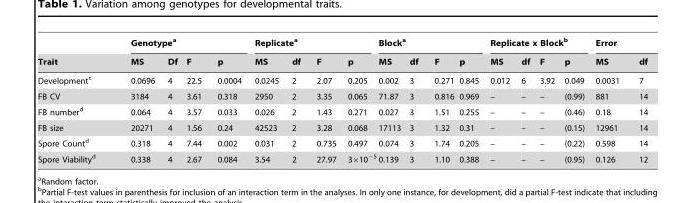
<table><thead><tr><td rowspan="2">Trait</td><td colspan="4">Genotype<sup>a</sup></td><td colspan="4">Replicate<sup>a</sup></td><td colspan="4">Block<sup>a</sup></td><td colspan="4">Replicate x Block<sup>b</sup></td><td colspan="2">Error</td></tr><tr><td>MS</td><td>Df</td><td>F</td><td>p</td><td>MS</td><td>df</td><td>F</td><td>p</td><td>MS</td><td>df</td><td>F</td><td>p</td><td>MS</td><td>df</td><td>F</td><td>p</td><td>MS</td><td>df</td></tr></thead><tbody><tr><td>Development<sup>c</sup></td><td>0.0696</td><td>4</td><td>22.5</td><td>0.0004</td><td>0.0245</td><td>2</td><td>2.07</td><td>0.205</td><td>0.002</td><td>3</td><td>0.271</td><td>0.845</td><td>0.012</td><td>6</td><td>3.92</td><td>0.049</td><td>0.0031</td><td>7</td></tr><tr><td>FB CV</td><td>3184</td><td>4</td><td>3.61</td><td>0.318</td><td>2950</td><td>2</td><td>3.35</td><td>0.065</td><td>71.87</td><td>3</td><td>0.816</td><td>0.969</td><td>–</td><td>–</td><td>–</td><td>(0.99)</td><td>881</td><td>14</td></tr><tr><td>FB number<sup>d</sup></td><td>0.064</td><td>4</td><td>3.57</td><td>0.033</td><td>0.026</td><td>2</td><td>1.43</td><td>0.271</td><td>0.027</td><td>3</td><td>1.51</td><td>0.255</td><td>–</td><td>–</td><td>–</td><td>(0.46)</td><td>0.18</td><td>14</td></tr><tr><td>FB size</td><td>20271</td><td>4</td><td>1.56</td><td>0.24</td><td>42523</td><td>2</td><td>3.28</td><td>0.068</td><td>17113</td><td>3</td><td>1.32</td><td>0.31</td><td>–</td><td>–</td><td>–</td><td>(0.15)</td><td>12961</td><td>14</td></tr><tr><td>Spore Count<sup>d</sup></td><td>0.318</td><td>4</td><td>7.44</td><td>0.002</td><td>0.031</td><td>2</td><td>0.735</td><td>0.497</td><td>0.074</td><td>3</td><td>1.74</td><td>0.205</td><td>–</td><td>–</td><td>–</td><td>(0.22)</td><td>0.598</td><td>14</td></tr><tr><td>Spore Viability<sup>d</sup></td><td>0.338</td><td>4</td><td>2.67</td><td>0.084</td><td>3.54</td><td>2</td><td>27.97</td><td>3×10<sup>−5</sup></td><td>0.139</td><td>3</td><td>1.10</td><td>0.388</td><td>–</td><td>–</td><td>–</td><td>(0.95)</td><td>0.126</td><td>12</td></tr></tbody></table>